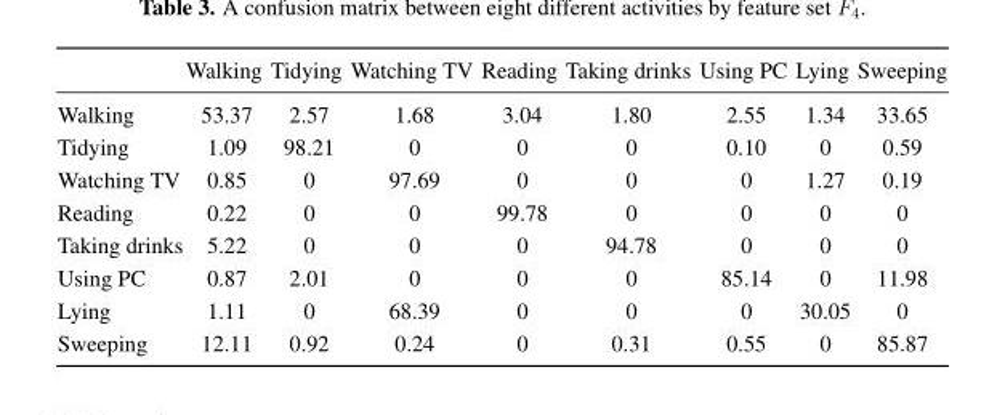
<table><thead><tr><td></td><td>Walking</td><td>Tidying</td><td>Watching TV</td><td>Reading</td><td>Taking drinks</td><td>Using PC</td><td>Lying</td><td>Sweeping</td></tr></thead><tbody><tr><td>Walking</td><td>53.37</td><td>2.57</td><td>1.68</td><td>3.04</td><td>1.80</td><td>2.55</td><td>1.34</td><td>33.65</td></tr><tr><td>Tidying</td><td>1.09</td><td>98.21</td><td>0</td><td>0</td><td>0</td><td>0.10</td><td>0</td><td>0.59</td></tr><tr><td>Watching TV</td><td>0.85</td><td>0</td><td>97.69</td><td>0</td><td>0</td><td>0</td><td>1.27</td><td>0.19</td></tr><tr><td>Reading</td><td>0.22</td><td>0</td><td>0</td><td>99.78</td><td>0</td><td>0</td><td>0</td><td>0</td></tr><tr><td>Taking drinks</td><td>5.22</td><td>0</td><td>0</td><td>0</td><td>94.78</td><td>0</td><td>0</td><td>0</td></tr><tr><td>Using PC</td><td>0.87</td><td>2.01</td><td>0</td><td>0</td><td>0</td><td>85.14</td><td>0</td><td>11.98</td></tr><tr><td>Lying</td><td>1.11</td><td>0</td><td>68.39</td><td>0</td><td>0</td><td>0</td><td>30.05</td><td>0</td></tr><tr><td>Sweeping</td><td>12.11</td><td>0.92</td><td>0.24</td><td>0</td><td>0.31</td><td>0.55</td><td>0</td><td>85.87</td></tr></tbody></table>